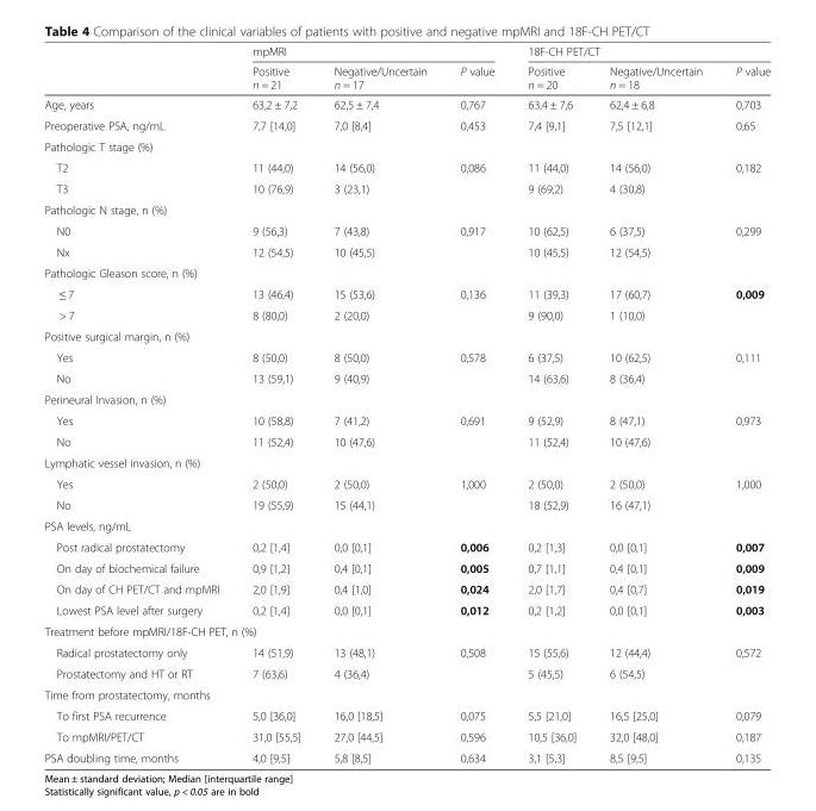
<table><thead><tr><td rowspan="2"></td><td colspan="3">mpMRI</td><td colspan="3">18F-CH PET/CT</td></tr><tr><td>Positive n = 21</td><td>Negative/Uncertain n = 17</td><td>P value</td><td>Positive n = 20</td><td>Negative/Uncertain n = 18</td><td>P value</td></tr></thead><tbody><tr><td>Age, years</td><td>63,2 ± 7,2</td><td>62,5 ± 7,4</td><td>0,767</td><td>63,4 ± 7,6</td><td>62,4 ± 6,8</td><td>0,703</td></tr><tr><td>Preoperative PSA, ng/mL</td><td>7,7 [14,0]</td><td>7,0 [8,4]</td><td>0,453</td><td>7,4 [9,1]</td><td>7,5 [12,1]</td><td>0,65</td></tr><tr><td colspan="7">Pathologic T stage (%)</td></tr><tr><td>T2</td><td>11 (44,0)</td><td>14 (56,0)</td><td rowspan="2">0,086</td><td>11 (44,0)</td><td>14 (56,0)</td><td rowspan="2">0,182</td></tr><tr><td>T3</td><td>10 (76,9)</td><td>3 (23,1)</td><td>9 (69,2)</td><td>4 (30,8)</td></tr><tr><td colspan="7">Pathologic N stage, n (%)</td></tr><tr><td>N0</td><td>9 (56,3)</td><td>7 (43,8)</td><td rowspan="2">0,917</td><td>10 (62,5)</td><td>6 (37,5)</td><td rowspan="2">0,299</td></tr><tr><td>Nx</td><td>12 (54,5)</td><td>10 (45,5)</td><td>10 (45,5)</td><td>12 (54,5)</td></tr><tr><td colspan="7">Pathologic Gleason score, n (%)</td></tr><tr><td>≤ 7</td><td>13 (46,4)</td><td>15 (53,6)</td><td rowspan="2">0,136</td><td>11 (39,3)</td><td>17 (60,7)</td><td rowspan="2">0,009</td></tr><tr><td>&gt; 7</td><td>8 (80,0)</td><td>2 (20,0)</td><td>9 (90,0)</td><td>1 (10,0)</td></tr><tr><td colspan="7">Positive surgical margin, n (%)</td></tr><tr><td>Yes</td><td>8 (50,0)</td><td>8 (50,0)</td><td rowspan="2">0,578</td><td>6 (37,5)</td><td>10 (62,5)</td><td rowspan="2">0,111</td></tr><tr><td>No</td><td>13 (59,1)</td><td>9 (40,9)</td><td>14 (63,6)</td><td>8 (36,4)</td></tr><tr><td colspan="7">Perineural Invasion, n (%)</td></tr><tr><td>Yes</td><td>10 (58,8)</td><td>7 (41,2)</td><td rowspan="2">0,691</td><td>9 (52,9)</td><td>8 (47,1)</td><td rowspan="2">0,973</td></tr><tr><td>No</td><td>11 (52,4)</td><td>10 (47,6)</td><td>11 (52,4)</td><td>10 (47,6)</td></tr><tr><td colspan="7">Lymphatic vessel invasion, n (%)</td></tr><tr><td>Yes</td><td>2 (50,0)</td><td>2 (50,0)</td><td rowspan="2">1,000</td><td>2 (50,0)</td><td>2 (50,0)</td><td rowspan="2">1,000</td></tr><tr><td>No</td><td>19 (55,9)</td><td>15 (44,1)</td><td>18 (52,9)</td><td>16 (47,1)</td></tr><tr><td colspan="7">PSA levels, ng/mL</td></tr><tr><td>Post radical prostatectomy</td><td>0,2 [1,4]</td><td>0,0 [0,1]</td><td>0,006</td><td>0,2 [1,3]</td><td>0,0 [0,1]</td><td>0,007</td></tr><tr><td>On day of biochemical failure</td><td>0,9 [1,2]</td><td>0,4 [0,1]</td><td>0,005</td><td>0,7 [1,1]</td><td>0,4 [0,1]</td><td>0,009</td></tr><tr><td>On day of CH PET/CT and mpMRI</td><td>2,0 [1,9]</td><td>0,4 [1,0]</td><td>0,024</td><td>2,0 [1,7]</td><td>0,4 [0,7]</td><td>0,019</td></tr><tr><td>Lowest PSA level after surgery</td><td>0,2 [1,4]</td><td>0,0 [0,1]</td><td>0,012</td><td>0,2 [1,2]</td><td>0,0 [0,1]</td><td>0,003</td></tr><tr><td colspan="7">Treatment before mpMRI/18F-CH PET, n (%)</td></tr><tr><td>Radical prostatectomy only</td><td>14 (51,9)</td><td>13 (48,1)</td><td rowspan="2">0,508</td><td>15 (55,6)</td><td>12 (44,4)</td><td rowspan="2">0,572</td></tr><tr><td>Prostatectomy and HT or RT</td><td>7 (63,6)</td><td>4 (36,4)</td><td>5 (45,5)</td><td>6 (54,5)</td></tr><tr><td colspan="7">Time from prostatectomy, months</td></tr><tr><td>To first PSA recurrence</td><td>5,0 [36,0]</td><td>16,0 [18,5]</td><td>0,075</td><td>5,5 [21,0]</td><td>16,5 [25,0]</td><td>0,079</td></tr><tr><td>To mpMRI/PET/CT</td><td>31,0 [55,5]</td><td>27,0 [44,5]</td><td>0,596</td><td>10,5 [36,0]</td><td>32,0 [48,0]</td><td>0,187</td></tr><tr><td>PSA doubling time, months</td><td>4,0 [9,5]</td><td>5,8 [8,5]</td><td>0,634</td><td>3,1 [5,3]</td><td>8,5 [9,5]</td><td>0,135</td></tr></tbody></table>